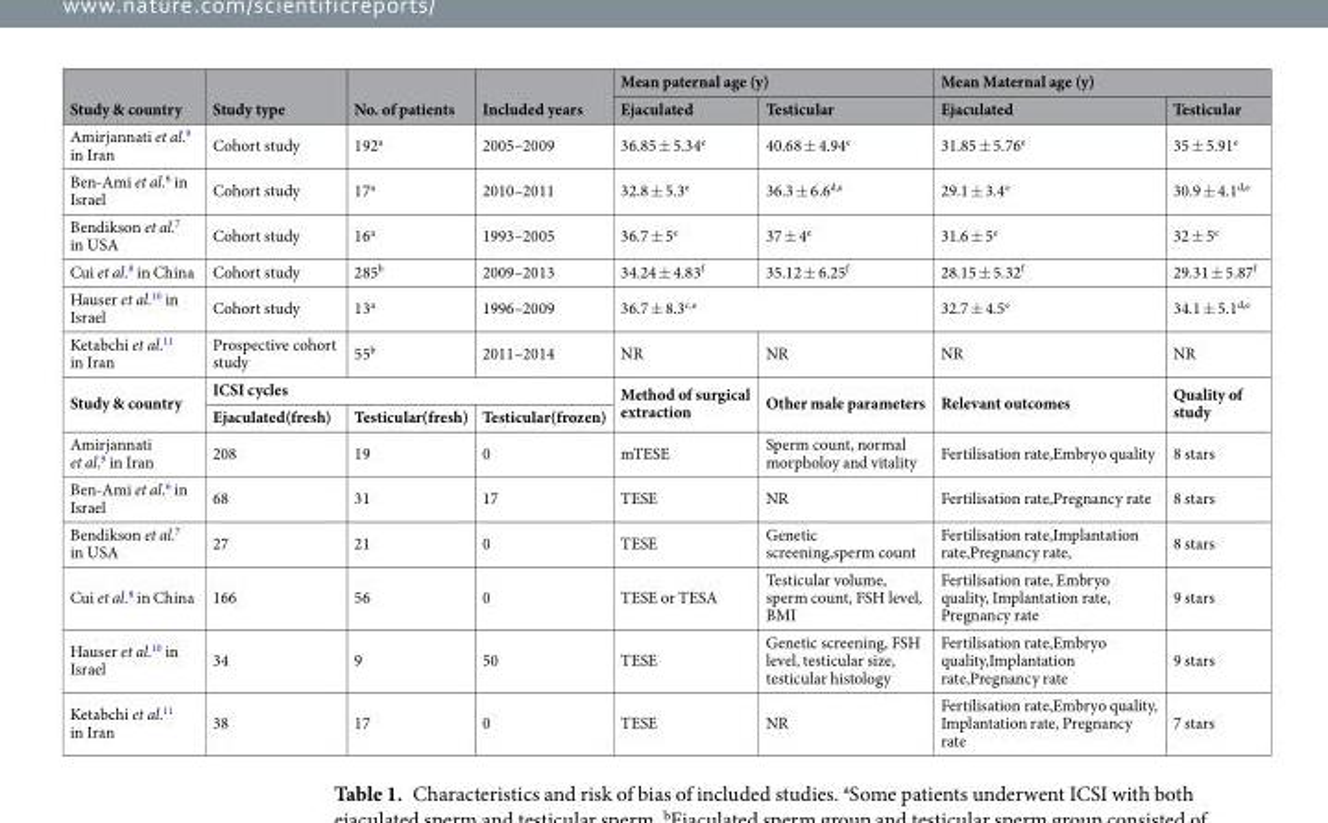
<table><thead><tr><td rowspan="2">Study &amp; country</td><td rowspan="2">Study type</td><td rowspan="2">No. of patients</td><td rowspan="2">Included years</td><td colspan="2">Mean paternal age (y)</td><td colspan="2">Mean Maternal age (y)</td></tr><tr><td>Ejaculated</td><td>Testicular</td><td>Ejaculated</td><td>Testicular</td></tr></thead><tbody><tr><td>Amirjannati et al.<sup>9</sup> in Iran</td><td>Cohort study</td><td>192<sup>a</sup></td><td>2005–2009</td><td>36.85 ± 5.34<sup>e</sup></td><td>40.68 ± 4.94<sup>e</sup></td><td>31.85 ± 5.76<sup>e</sup></td><td>35 ± 5.91<sup>e</sup></td></tr><tr><td>Ben-Ami et al.<sup>6</sup> in Israel</td><td>Cohort study</td><td>17<sup>a</sup></td><td>2010–2011</td><td>32.8 ± 5.3<sup>e</sup></td><td>36.3 ± 6.6<sup>d,e</sup></td><td>29.1 ± 3.4<sup>e</sup></td><td>30.9 ± 4.1<sup>d,e</sup></td></tr><tr><td>Bendikson et al.<sup>7</sup> in USA</td><td>Cohort study</td><td>16<sup>a</sup></td><td>1993–2005</td><td>36.7 ± 5<sup>e</sup></td><td>37 ± 4<sup>e</sup></td><td>31.6 ± 5<sup>e</sup></td><td>32 ± 5<sup>e</sup></td></tr><tr><td>Cui et al.<sup>8</sup> in China</td><td>Cohort study</td><td>285<sup>b</sup></td><td>2009–2013</td><td>34.24 ± 4.83<sup>f</sup></td><td>35.12 ± 6.25<sup>f</sup></td><td>28.15 ± 5.32<sup>f</sup></td><td>29.31 ± 5.87<sup>f</sup></td></tr><tr><td>Hauser et al.<sup>10</sup> in Israel</td><td>Cohort study</td><td>13<sup>a</sup></td><td>1996–2009</td><td colspan="2">36.7 ± 8.3<sup>c,e</sup></td><td>32.7 ± 4.5<sup>e</sup></td><td>34.1 ± 5.1<sup>d,e</sup></td></tr><tr><td>Ketabchi et al.<sup>11</sup> in Iran</td><td>Prospective cohort study</td><td>55<sup>b</sup></td><td>2011–2014</td><td>NR</td><td>NR</td><td>NR</td><td>NR</td></tr><tr><td rowspan="2">Study &amp; country</td><td colspan="3">ICSI cycles</td><td rowspan="2">Method of surgical extraction</td><td rowspan="2">Other male parameters</td><td rowspan="2">Relevant outcomes</td><td rowspan="2">Quality of study</td></tr><tr><td>Ejaculated(fresh)</td><td>Testicular(fresh)</td><td>Testicular(frozen)</td></tr><tr><td>Amirjannati et al.<sup>9</sup> in Iran</td><td>208</td><td>19</td><td>0</td><td>mTESE</td><td>Sperm count, normal morpholoy and vitality</td><td>Fertilisation rate,Embryo quality</td><td>8 stars</td></tr><tr><td>Ben-Ami et al.<sup>6</sup> in Israel</td><td>68</td><td>31</td><td>17</td><td>TESE</td><td>NR</td><td>Fertilisation rate,Pregnancy rate</td><td>8 stars</td></tr><tr><td>Bendikson et al.<sup>7</sup> in USA</td><td>27</td><td>21</td><td>0</td><td>TESE</td><td>Genetic screening,sperm count</td><td>Fertilisation rate,Implantation rate,Pregnancy rate,</td><td>8 stars</td></tr><tr><td>Cui et al.<sup>8</sup> in China</td><td>166</td><td>56</td><td>0</td><td>TESE or TESA</td><td>Testicular volume, sperm count, FSH level, BMI</td><td>Fertilisation rate, Embryo quality, Implantation rate, Pregnancy rate</td><td>9 stars</td></tr><tr><td>Hauser et al.<sup>10</sup> in Israel</td><td>34</td><td>9</td><td>50</td><td>TESE</td><td>Genetic screening, FSH level, testicular size, testicular histology</td><td>Fertilisation rate,Embryo quality,Implantation rate,Pregnancy rate</td><td>9 stars</td></tr><tr><td>Ketabchi et al.<sup>11</sup> in Iran</td><td>38</td><td>17</td><td>0</td><td>TESE</td><td>NR</td><td>Fertilisation rate,Embryo quality, Implantation rate, Pregnancy rate</td><td>7 stars</td></tr></tbody></table>